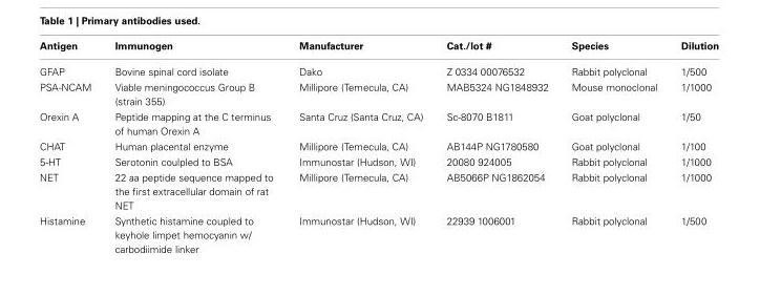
<table><thead><tr><td>Antigen</td><td>Immunogen</td><td>Manufacturer</td><td>Cat./lot #</td><td>Species</td><td>Dilution</td></tr></thead><tbody><tr><td>GFAP</td><td>Bovine spinal cord isolate</td><td>Dako</td><td>Z 0334 00076532</td><td>Rabbit polyclonal</td><td>1/500</td></tr><tr><td>PSA-NCAM</td><td>Viable meningococcus Group B (strain 355)</td><td>Millipore (Temecula, CA)</td><td>MAB5324 NG1848932</td><td>Mouse monoclonal</td><td>1/1000</td></tr><tr><td>Orexin A</td><td>Peptide mapping at the C terminus of human Orexin A</td><td>Santa Cruz (Santa Cruz, CA)</td><td>Sc-8070 B1811</td><td>Goat polyclonal</td><td>1/50</td></tr><tr><td>CHAT</td><td>Human placental enzyme</td><td>Millipore (Temecula, CA)</td><td>AB144P NG1780580</td><td>Goat polyclonal</td><td>1/100</td></tr><tr><td>5-HT</td><td>Serotonin coulpled to BSA</td><td>Immunostar (Hudson, WI)</td><td>20080 924005</td><td>Rabbit polyclonal</td><td>1/1000</td></tr><tr><td>NET</td><td>22 aa peptide sequence mapped to the first extracellular domain of rat NET</td><td>Millipore (Temecula, CA)</td><td>AB5066P NG1862054</td><td>Rabbit polyclonal</td><td>1/1000</td></tr><tr><td>Histamine</td><td>Synthetic histamine coupled to keyhole limpet hemocyanin w/ carbodiimide linker</td><td>Immunostar (Hudson, WI)</td><td>22939 1006001</td><td>Rabbit polyclonal</td><td>1/500</td></tr></tbody></table>